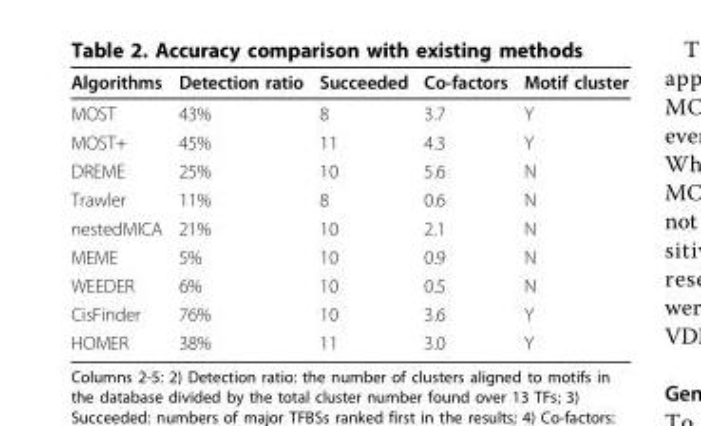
<table><thead><tr><td>Algorithms</td><td>Detection ratio</td><td>Succeeded</td><td>Co-factors</td><td>Motif cluster</td></tr></thead><tbody><tr><td>MOST</td><td>43%</td><td>8</td><td>3.7</td><td>Y</td></tr><tr><td>MOST+</td><td>45%</td><td>11</td><td>4.3</td><td>Y</td></tr><tr><td>DREME</td><td>25%</td><td>10</td><td>5.6</td><td>N</td></tr><tr><td>Trawler</td><td>11%</td><td>8</td><td>0.6</td><td>N</td></tr><tr><td>nestedMICA</td><td>21%</td><td>10</td><td>2.1</td><td>N</td></tr><tr><td>MEME</td><td>5%</td><td>10</td><td>0.9</td><td>N</td></tr><tr><td>WEEDER</td><td>6%</td><td>10</td><td>0.5</td><td>N</td></tr><tr><td>CisFinder</td><td>76%</td><td>10</td><td>3.6</td><td>Y</td></tr><tr><td>HOMER</td><td>38%</td><td>11</td><td>3.0</td><td>Y</td></tr></tbody></table>